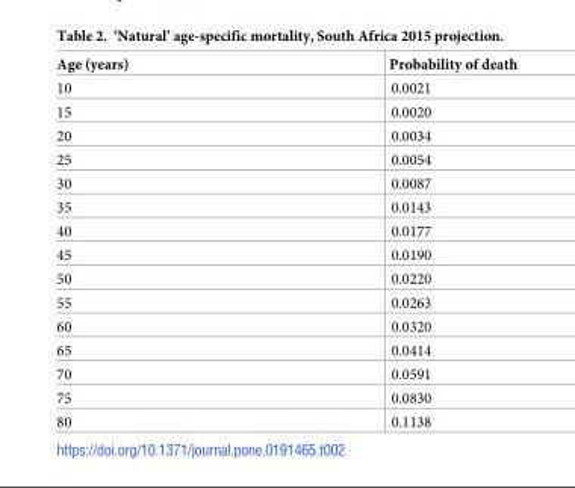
<table><thead><tr><td>Age (years)</td><td>Probability of death</td></tr></thead><tbody><tr><td>10</td><td>0.0021</td></tr><tr><td>15</td><td>0.0020</td></tr><tr><td>20</td><td>0.0034</td></tr><tr><td>25</td><td>0.0054</td></tr><tr><td>30</td><td>0.0087</td></tr><tr><td>35</td><td>0.0143</td></tr><tr><td>40</td><td>0.0177</td></tr><tr><td>45</td><td>0.0190</td></tr><tr><td>50</td><td>0.0220</td></tr><tr><td>55</td><td>0.0263</td></tr><tr><td>60</td><td>0.0320</td></tr><tr><td>65</td><td>0.0414</td></tr><tr><td>70</td><td>0.0591</td></tr><tr><td>75</td><td>0.0830</td></tr><tr><td>80</td><td>0.1138</td></tr></tbody></table>